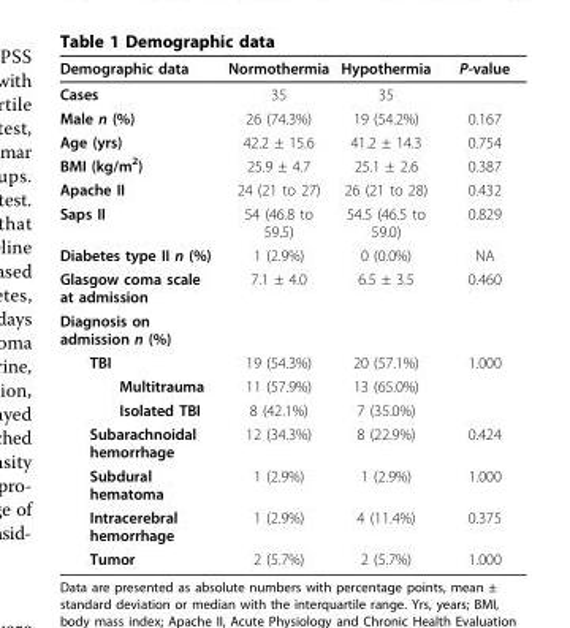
<table><thead><tr><td>Demographic data</td><td>Normothermia</td><td>Hypothermia</td><td>P-value</td></tr></thead><tbody><tr><td>Cases</td><td>35</td><td>35</td><td></td></tr><tr><td>Male n (%)</td><td>26 (74.3%)</td><td>19 (54.2%)</td><td>0.167</td></tr><tr><td>Age (yrs)</td><td>42.2 ± 15.6</td><td>41.2 ± 14.3</td><td>0.754</td></tr><tr><td>BMI (kg/m<sup>2</sup>)</td><td>25.9 ± 4.7</td><td>25.1 ± 2.6</td><td>0.387</td></tr><tr><td>Apache II</td><td>24 (21 to 27)</td><td>26 (21 to 28)</td><td>0.432</td></tr><tr><td>Saps II</td><td>54 (46.8 to 59.5)</td><td>54.5 (46.5 to 59.0)</td><td>0.829</td></tr><tr><td>Diabetes type II n (%)</td><td>1 (2.9%)</td><td>0 (0.0%)</td><td>NA</td></tr><tr><td>Glasgow coma scale at admission</td><td>7.1 ± 4.0</td><td>6.5 ± 3.5</td><td>0.460</td></tr><tr><td colspan="4">Diagnosis on admission n (%)</td></tr><tr><td>TBI</td><td>19 (54.3%)</td><td>20 (57.1%)</td><td>1.000</td></tr><tr><td>Multitrauma</td><td>11 (57.9%)</td><td>13 (65.0%)</td><td></td></tr><tr><td>Isolated TBI</td><td>8 (42.1%)</td><td>7 (35.0%)</td><td></td></tr><tr><td>Subarachnoidal hemorrhage</td><td>12 (34.3%)</td><td>8 (22.9%)</td><td>0.424</td></tr><tr><td>Subdural hematoma</td><td>1 (2.9%)</td><td>1 (2.9%)</td><td>1.000</td></tr><tr><td>Intracerebral hemorrhage</td><td>1 (2.9%)</td><td>4 (11.4%)</td><td>0.375</td></tr><tr><td>Tumor</td><td>2 (5.7%)</td><td>2 (5.7%)</td><td>1.000</td></tr></tbody></table>